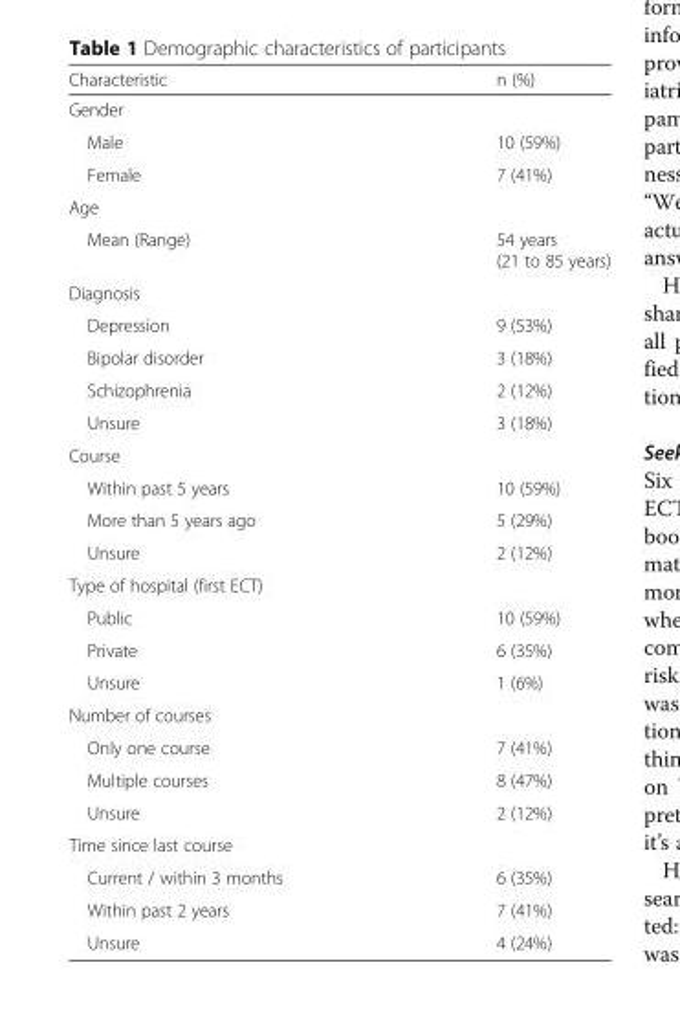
<table><thead><tr><td>Characteristic</td><td>n (%)</td></tr></thead><tbody><tr><td colspan="2">Gender</td></tr><tr><td>Male</td><td>10 (59%)</td></tr><tr><td>Female</td><td>7 (41%)</td></tr><tr><td colspan="2">Age</td></tr><tr><td>Mean (Range)</td><td>54 years (21 to 85 years)</td></tr><tr><td colspan="2">Diagnosis</td></tr><tr><td>Depression</td><td>9 (53%)</td></tr><tr><td>Bipolar disorder</td><td>3 (18%)</td></tr><tr><td>Schizophrenia</td><td>2 (12%)</td></tr><tr><td>Unsure</td><td>3 (18%)</td></tr><tr><td colspan="2">Course</td></tr><tr><td>Within past 5 years</td><td>10 (59%)</td></tr><tr><td>More than 5 years ago</td><td>5 (29%)</td></tr><tr><td>Unsure</td><td>2 (12%)</td></tr><tr><td colspan="2">Type of hospital (first ECT)</td></tr><tr><td>Public</td><td>10 (59%)</td></tr><tr><td>Private</td><td>6 (35%)</td></tr><tr><td>Unsure</td><td>1 (6%)</td></tr><tr><td colspan="2">Number of courses</td></tr><tr><td>Only one course</td><td>7 (41%)</td></tr><tr><td>Multiple courses</td><td>8 (47%)</td></tr><tr><td>Unsure</td><td>2 (12%)</td></tr><tr><td colspan="2">Time since last course</td></tr><tr><td>Current / within 3 months</td><td>6 (35%)</td></tr><tr><td>Within past 2 years</td><td>7 (41%)</td></tr><tr><td>Unsure</td><td>4 (24%)</td></tr></tbody></table>